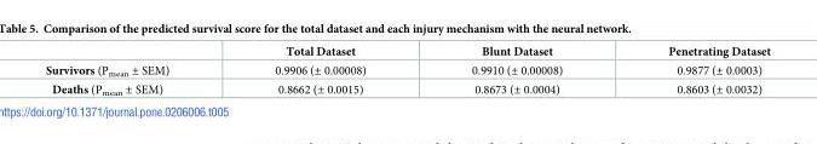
<table><thead><tr><td></td><td>Total Dataset</td><td>Blunt Dataset</td><td>Penetrating Dataset</td></tr></thead><tbody><tr><td>Survivors (P<sub>mean</sub> ± SEM)</td><td>0.9906 (± 0.00008)</td><td>0.9910 (± 0.00008)</td><td>0.9877 (± 0.0003)</td></tr><tr><td>Deaths (P<sub>mean</sub> ± SEM)</td><td>0.8662 (± 0.0015)</td><td>0.8673 (± 0.0004)</td><td>0.8603 (± 0.0032)</td></tr></tbody></table>